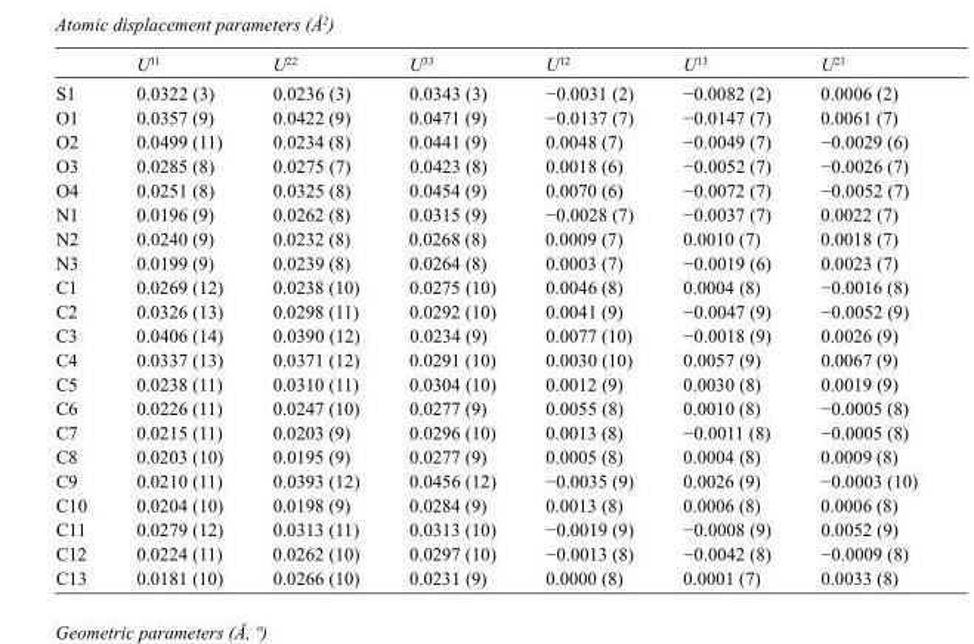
<table><thead><tr><td></td><td>U<sup>11</sup></td><td>U<sup>22</sup></td><td>U<sup>33</sup></td><td>U<sup>12</sup></td><td>U<sup>13</sup></td><td>U<sup>23</sup></td></tr></thead><tbody><tr><td>S1</td><td>0.0322 (3)</td><td>0.0236 (3)</td><td>0.0343 (3)</td><td>−0.0031 (2)</td><td>−0.0082 (2)</td><td>0.0006 (2)</td></tr><tr><td>O1</td><td>0.0357 (9)</td><td>0.0422 (9)</td><td>0.0471 (9)</td><td>−0.0137 (7)</td><td>−0.0147 (7)</td><td>0.0061 (7)</td></tr><tr><td>O2</td><td>0.0499 (11)</td><td>0.0234 (8)</td><td>0.0441 (9)</td><td>0.0048 (7)</td><td>−0.0049 (7)</td><td>−0.0029 (6)</td></tr><tr><td>O3</td><td>0.0285 (8)</td><td>0.0275 (7)</td><td>0.0423 (8)</td><td>0.0018 (6)</td><td>−0.0052 (7)</td><td>−0.0026 (7)</td></tr><tr><td>O4</td><td>0.0251 (8)</td><td>0.0325 (8)</td><td>0.0454 (9)</td><td>0.0070 (6)</td><td>−0.0072 (7)</td><td>−0.0052 (7)</td></tr><tr><td>N1</td><td>0.0196 (9)</td><td>0.0262 (8)</td><td>0.0315 (9)</td><td>−0.0028 (7)</td><td>−0.0037 (7)</td><td>0.0022 (7)</td></tr><tr><td>N2</td><td>0.0240 (9)</td><td>0.0232 (8)</td><td>0.0268 (8)</td><td>0.0009 (7)</td><td>0.0010 (7)</td><td>0.0018 (7)</td></tr><tr><td>N3</td><td>0.0199 (9)</td><td>0.0239 (8)</td><td>0.0264 (8)</td><td>0.0003 (7)</td><td>−0.0019 (6)</td><td>0.0023 (7)</td></tr><tr><td>C1</td><td>0.0269 (12)</td><td>0.0238 (10)</td><td>0.0275 (10)</td><td>0.0046 (8)</td><td>0.0004 (8)</td><td>−0.0016 (8)</td></tr><tr><td>C2</td><td>0.0326 (13)</td><td>0.0298 (11)</td><td>0.0292 (10)</td><td>0.0041 (9)</td><td>−0.0047 (9)</td><td>−0.0052 (9)</td></tr><tr><td>C3</td><td>0.0406 (14)</td><td>0.0390 (12)</td><td>0.0234 (9)</td><td>0.0077 (10)</td><td>−0.0018 (9)</td><td>0.0026 (9)</td></tr><tr><td>C4</td><td>0.0337 (13)</td><td>0.0371 (12)</td><td>0.0291 (10)</td><td>0.0030 (10)</td><td>0.0057 (9)</td><td>0.0067 (9)</td></tr><tr><td>C5</td><td>0.0238 (11)</td><td>0.0310 (11)</td><td>0.0304 (10)</td><td>0.0012 (9)</td><td>0.0030 (8)</td><td>0.0019 (9)</td></tr><tr><td>C6</td><td>0.0226 (11)</td><td>0.0247 (10)</td><td>0.0277 (9)</td><td>0.0055 (8)</td><td>0.0010 (8)</td><td>−0.0005 (8)</td></tr><tr><td>C7</td><td>0.0215 (11)</td><td>0.0203 (9)</td><td>0.0296 (10)</td><td>0.0013 (8)</td><td>−0.0011 (8)</td><td>−0.0005 (8)</td></tr><tr><td>C8</td><td>0.0203 (10)</td><td>0.0195 (9)</td><td>0.0277 (9)</td><td>0.0005 (8)</td><td>0.0004 (8)</td><td>0.0009 (8)</td></tr><tr><td>C9</td><td>0.0210 (11)</td><td>0.0393 (12)</td><td>0.0456 (12)</td><td>−0.0035 (9)</td><td>0.0026 (9)</td><td>−0.0003 (10)</td></tr><tr><td>C10</td><td>0.0204 (10)</td><td>0.0198 (9)</td><td>0.0284 (9)</td><td>0.0013 (8)</td><td>0.0006 (8)</td><td>0.0006 (8)</td></tr><tr><td>C11</td><td>0.0279 (12)</td><td>0.0313 (11)</td><td>0.0313 (10)</td><td>−0.0019 (9)</td><td>−0.0008 (9)</td><td>0.0052 (9)</td></tr><tr><td>C12</td><td>0.0224 (11)</td><td>0.0262 (10)</td><td>0.0297 (10)</td><td>−0.0013 (8)</td><td>−0.0042 (8)</td><td>−0.0009 (8)</td></tr><tr><td>C13</td><td>0.0181 (10)</td><td>0.0266 (10)</td><td>0.0231 (9)</td><td>0.0000 (8)</td><td>0.0001 (7)</td><td>0.0033 (8)</td></tr></tbody></table>